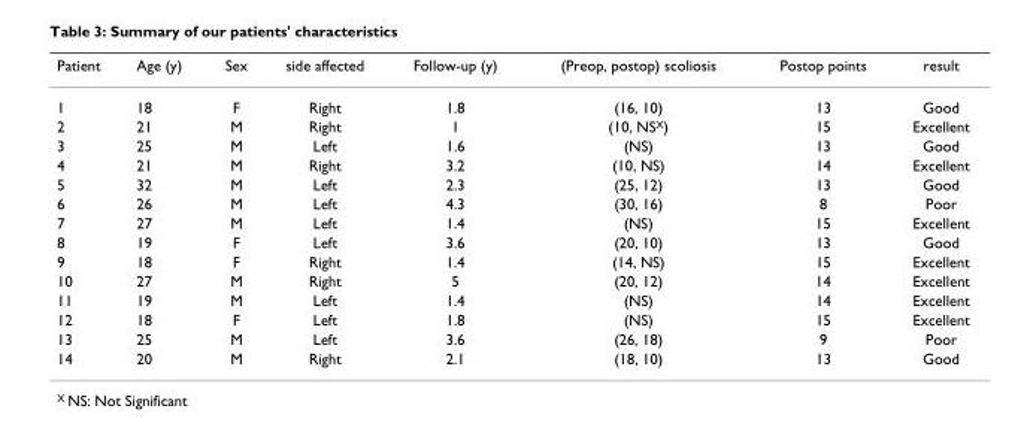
<table><thead><tr><td>Patient</td><td>Age (y)</td><td>Sex</td><td>side affected</td><td>Follow-up (y)</td><td>(Preop, postop) scoliosis</td><td>Postop points</td><td>result</td></tr></thead><tbody><tr><td>1</td><td>18</td><td>F</td><td>Right</td><td>1.8</td><td>(16, 10)</td><td>13</td><td>Good</td></tr><tr><td>2</td><td>21</td><td>M</td><td>Right</td><td>1</td><td>(10, NS<sup>X</sup>)</td><td>15</td><td>Excellent</td></tr><tr><td>3</td><td>25</td><td>M</td><td>Left</td><td>1.6</td><td>(NS)</td><td>13</td><td>Good</td></tr><tr><td>4</td><td>21</td><td>M</td><td>Right</td><td>3.2</td><td>(10, NS)</td><td>14</td><td>Excellent</td></tr><tr><td>5</td><td>32</td><td>M</td><td>Left</td><td>2.3</td><td>(25, 12)</td><td>13</td><td>Good</td></tr><tr><td>6</td><td>26</td><td>M</td><td>Left</td><td>4.3</td><td>(30, 16)</td><td>8</td><td>Poor</td></tr><tr><td>7</td><td>27</td><td>M</td><td>Left</td><td>1.4</td><td>(NS)</td><td>15</td><td>Excellent</td></tr><tr><td>8</td><td>19</td><td>F</td><td>Left</td><td>3.6</td><td>(20, 10)</td><td>13</td><td>Good</td></tr><tr><td>9</td><td>18</td><td>F</td><td>Right</td><td>1.4</td><td>(14, NS)</td><td>15</td><td>Excellent</td></tr><tr><td>10</td><td>27</td><td>M</td><td>Right</td><td>5</td><td>(20, 12)</td><td>14</td><td>Excellent</td></tr><tr><td>11</td><td>19</td><td>M</td><td>Left</td><td>1.4</td><td>(NS)</td><td>14</td><td>Excellent</td></tr><tr><td>12</td><td>18</td><td>F</td><td>Left</td><td>1.8</td><td>(NS)</td><td>15</td><td>Excellent</td></tr><tr><td>13</td><td>25</td><td>M</td><td>Left</td><td>3.6</td><td>(26, 18)</td><td>9</td><td>Poor</td></tr><tr><td>14</td><td>20</td><td>M</td><td>Right</td><td>2.1</td><td>(18, 10)</td><td>13</td><td>Good</td></tr></tbody></table>